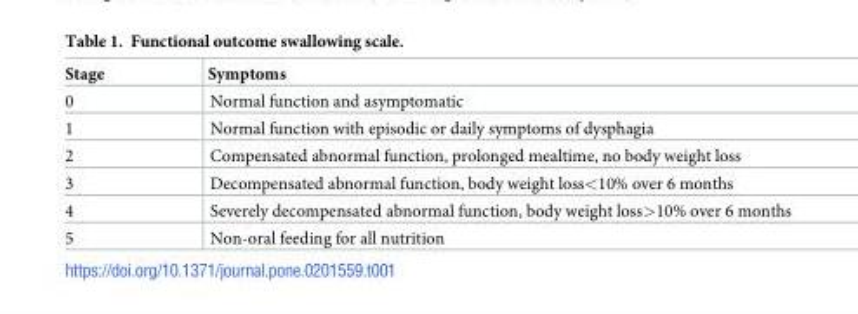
<table><thead><tr><td>Stage</td><td>Symptoms</td></tr></thead><tbody><tr><td>0</td><td>Normal function and asymptomatic</td></tr><tr><td>1</td><td>Normal function with episodic or daily symptoms of dysphagia</td></tr><tr><td>2</td><td>Compensated abnormal function, prolonged mealtime, no body weight loss</td></tr><tr><td>3</td><td>Decompensated abnormal function, body weight loss&lt;10% over 6 months</td></tr><tr><td>4</td><td>Severely decompensated abnormal function, body weight loss&gt;10% over 6 months</td></tr><tr><td>5</td><td>Non-oral feeding for all nutrition</td></tr></tbody></table>